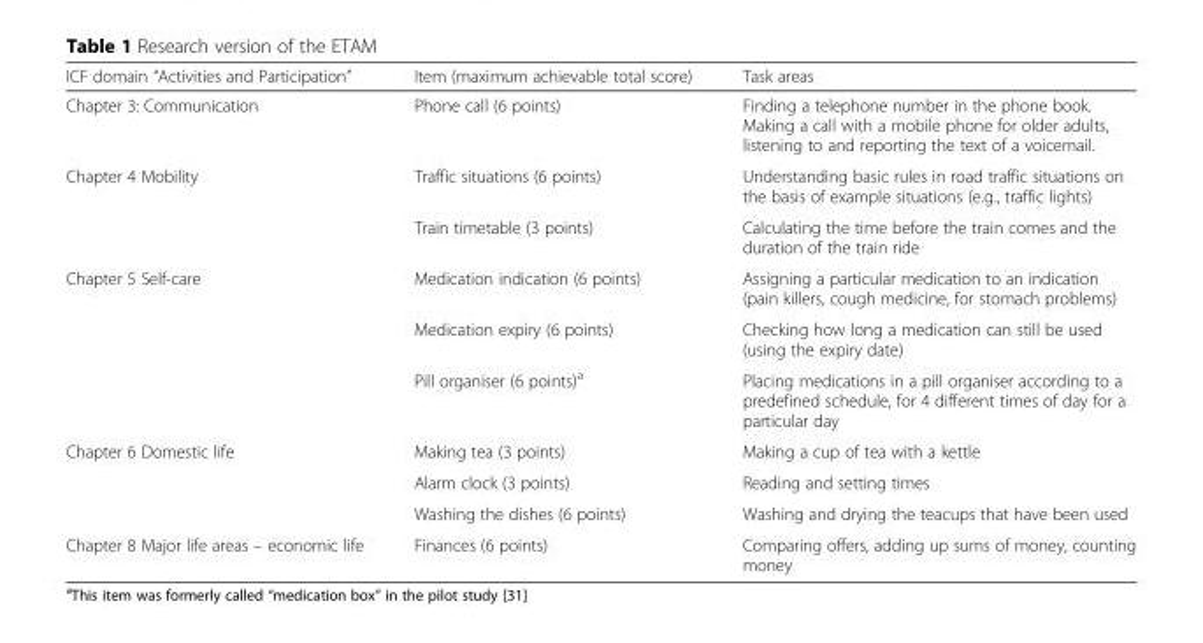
<table><thead><tr><td>ICF domain “Activities and Participation”</td><td>Item (maximum achievable total score)</td><td>Task areas</td></tr></thead><tbody><tr><td>Chapter 3: Communication</td><td>Phone call (6 points)</td><td>Finding a telephone number in the phone book. Making a call with a mobile phone for older adults, listening to and reporting the text of a voicemail.</td></tr><tr><td rowspan="2">Chapter 4 Mobility</td><td>Traffic situations (6 points)</td><td>Understanding basic rules in road traffic situations on the basis of example situations (e.g., traffic lights)</td></tr><tr><td>Train timetable (3 points)</td><td>Calculating the time before the train comes and the duration of the train ride</td></tr><tr><td rowspan="3">Chapter 5 Self-care</td><td>Medication indication (6 points)</td><td>Assigning a particular medication to an indication (pain killers, cough medicine, for stomach problems)</td></tr><tr><td>Medication expiry (6 points)</td><td>Checking how long a medication can still be used (using the expiry date)</td></tr><tr><td>Pill organiser (6 points)<sup>a</sup></td><td>Placing medications in a pill organiser according to a predefined schedule, for 4 different times of day for a particular day</td></tr><tr><td rowspan="3">Chapter 6 Domestic life</td><td>Making tea (3 points)</td><td>Making a cup of tea with a kettle</td></tr><tr><td>Alarm clock (3 points)</td><td>Reading and setting times</td></tr><tr><td>Washing the dishes (6 points)</td><td>Washing and drying the teacups that have been used</td></tr><tr><td>Chapter 8 Major life areas – economic life</td><td>Finances (6 points)</td><td>Comparing offers, adding up sums of money, counting money</td></tr></tbody></table>